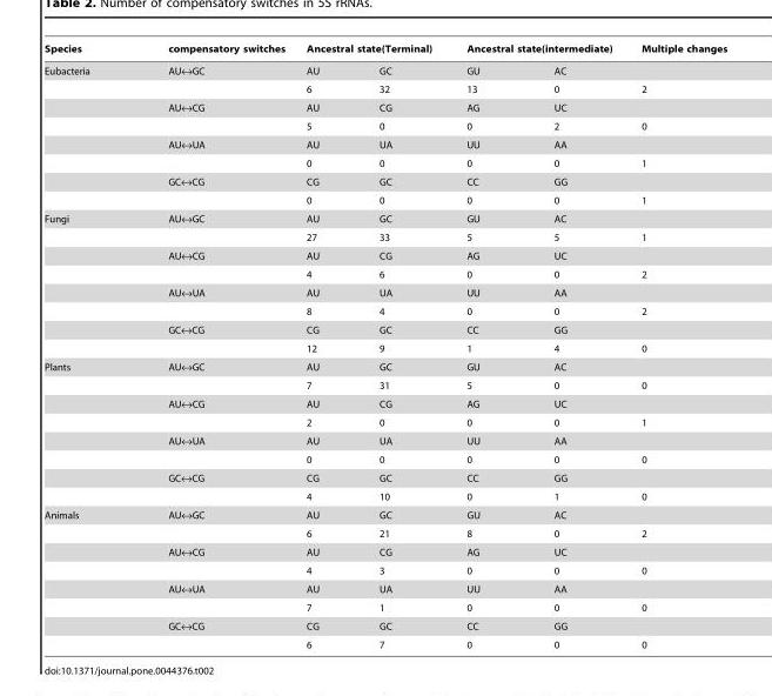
<table><thead><tr><td rowspan="2">Species Eubacteria</td><td rowspan="2">compensatory switches AU↔GC</td><td colspan="2">Ancestral state(Terminal)</td><td colspan="2">Ancestral state(intermediate)</td><td rowspan="2">Multiple changes</td></tr><tr><td>AU</td><td>GC</td><td>GU</td><td>AC</td></tr></thead><tbody><tr><td></td><td></td><td>6</td><td>32</td><td>13</td><td>0</td><td>2</td></tr><tr><td></td><td>AU↔CG</td><td>AU</td><td>CG</td><td>AG</td><td>UC</td><td></td></tr><tr><td></td><td></td><td>5</td><td>0</td><td>0</td><td>2</td><td>0</td></tr><tr><td></td><td>AU↔UA</td><td>AU</td><td>UA</td><td>UU</td><td>AA</td><td></td></tr><tr><td></td><td></td><td>0</td><td>0</td><td>0</td><td>0</td><td>1</td></tr><tr><td></td><td>GC↔CG</td><td>CG</td><td>GC</td><td>CC</td><td>GG</td><td></td></tr><tr><td></td><td></td><td>0</td><td>0</td><td>0</td><td>0</td><td>1</td></tr><tr><td rowspan="8">Fungi</td><td>AU↔GC</td><td>AU</td><td>GC</td><td>GU</td><td>AC</td><td></td></tr><tr><td></td><td>27</td><td>33</td><td>5</td><td>5</td><td>1</td></tr><tr><td>AU↔CG</td><td>AU</td><td>CG</td><td>AG</td><td>UC</td><td></td></tr><tr><td></td><td>4</td><td>6</td><td>0</td><td>0</td><td>2</td></tr><tr><td>AU↔UA</td><td>AU</td><td>UA</td><td>UU</td><td>AA</td><td></td></tr><tr><td></td><td>8</td><td>4</td><td>0</td><td>0</td><td>2</td></tr><tr><td>GC↔CG</td><td>CG</td><td>GC</td><td>CC</td><td>GG</td><td></td></tr><tr><td></td><td>12</td><td>9</td><td>1</td><td>4</td><td>0</td></tr><tr><td rowspan="8">Plants</td><td>AU↔GC</td><td>AU</td><td>GC</td><td>GU</td><td>AC</td><td></td></tr><tr><td></td><td>7</td><td>31</td><td>5</td><td>0</td><td>0</td></tr><tr><td>AU↔CG</td><td>AU</td><td>CG</td><td>AG</td><td>UC</td><td></td></tr><tr><td></td><td>2</td><td>0</td><td>0</td><td>0</td><td>1</td></tr><tr><td>AU↔UA</td><td>AU</td><td>UA</td><td>UU</td><td>AA</td><td></td></tr><tr><td></td><td>0</td><td>0</td><td>0</td><td>0</td><td>0</td></tr><tr><td>GC↔CG</td><td>CG</td><td>GC</td><td>CC</td><td>GG</td><td></td></tr><tr><td></td><td>4</td><td>10</td><td>0</td><td>1</td><td>0</td></tr><tr><td rowspan="8">Animals</td><td>AU↔GC</td><td>AU</td><td>GC</td><td>GU</td><td>AC</td><td></td></tr><tr><td></td><td>6</td><td>21</td><td>8</td><td>0</td><td>2</td></tr><tr><td>AU↔CG</td><td>AU</td><td>CG</td><td>AG</td><td>UC</td><td></td></tr><tr><td></td><td>4</td><td>3</td><td>0</td><td>0</td><td>0</td></tr><tr><td>AU↔UA</td><td>AU</td><td>UA</td><td>UU</td><td>AA</td><td></td></tr><tr><td></td><td>7</td><td>1</td><td>0</td><td>0</td><td>0</td></tr><tr><td>GC↔CG</td><td>CG</td><td>GC</td><td>CC</td><td>GG</td><td></td></tr><tr><td></td><td>6</td><td>7</td><td>0</td><td>0</td><td>0</td></tr></tbody></table>